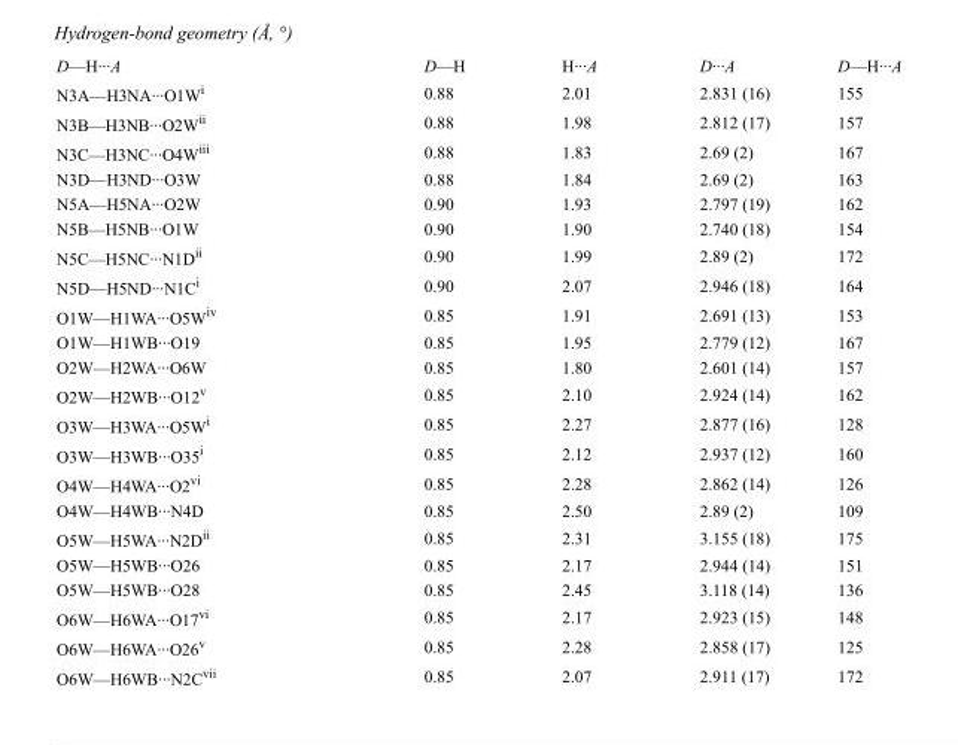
<table><tbody><tr><td>D—H···A</td><td>D—H</td><td>H···A</td><td>D···A</td><td>D—H···A</td></tr><tr><td>N3A—H3NA···O1W<sup>i</sup></td><td>0.88</td><td>2.01</td><td>2.831 (16)</td><td>155</td></tr><tr><td>N3B—H3NB···O2W<sup>ii</sup></td><td>0.88</td><td>1.98</td><td>2.812 (17)</td><td>157</td></tr><tr><td>N3C—H3NC···O4W<sup>iii</sup></td><td>0.88</td><td>1.83</td><td>2.69 (2)</td><td>167</td></tr><tr><td>N3D—H3ND···O3W</td><td>0.88</td><td>1.84</td><td>2.69 (2)</td><td>163</td></tr><tr><td>N5A—H5NA···O2W</td><td>0.90</td><td>1.93</td><td>2.797 (19)</td><td>162</td></tr><tr><td>N5B—H5NB···O1W</td><td>0.90</td><td>1.90</td><td>2.740 (18)</td><td>154</td></tr><tr><td>N5C—H5NC···N1D<sup>ii</sup></td><td>0.90</td><td>1.99</td><td>2.89 (2)</td><td>172</td></tr><tr><td>N5D—H5ND···N1C<sup>i</sup></td><td>0.90</td><td>2.07</td><td>2.946 (18)</td><td>164</td></tr><tr><td>O1W—H1WA···O5W<sup>iv</sup></td><td>0.85</td><td>1.91</td><td>2.691 (13)</td><td>153</td></tr><tr><td>O1W—H1WB···O19</td><td>0.85</td><td>1.95</td><td>2.779 (12)</td><td>167</td></tr><tr><td>O2W—H2WA···O6W</td><td>0.85</td><td>1.80</td><td>2.601 (14)</td><td>157</td></tr><tr><td>O2W—H2WB···O12<sup>v</sup></td><td>0.85</td><td>2.10</td><td>2.924 (14)</td><td>162</td></tr><tr><td>O3W—H3WA···O5W<sup>i</sup></td><td>0.85</td><td>2.27</td><td>2.877 (16)</td><td>128</td></tr><tr><td>O3W—H3WB···O35<sup>i</sup></td><td>0.85</td><td>2.12</td><td>2.937 (12)</td><td>160</td></tr><tr><td>O4W—H4WA···O2<sup>vi</sup></td><td>0.85</td><td>2.28</td><td>2.862 (14)</td><td>126</td></tr><tr><td>O4W—H4WB···N4D</td><td>0.85</td><td>2.50</td><td>2.89 (2)</td><td>109</td></tr><tr><td>O5W—H5WA···N2D<sup>ii</sup></td><td>0.85</td><td>2.31</td><td>3.155 (18)</td><td>175</td></tr><tr><td>O5W—H5WB···O26</td><td>0.85</td><td>2.17</td><td>2.944 (14)</td><td>151</td></tr><tr><td>O5W—H5WB···O28</td><td>0.85</td><td>2.45</td><td>3.118 (14)</td><td>136</td></tr><tr><td>O6W—H6WA···O17<sup>vi</sup></td><td>0.85</td><td>2.17</td><td>2.923 (15)</td><td>148</td></tr><tr><td>O6W—H6WA···O26<sup>v</sup></td><td>0.85</td><td>2.28</td><td>2.858 (17)</td><td>125</td></tr><tr><td>O6W—H6WB···N2C<sup>vii</sup></td><td>0.85</td><td>2.07</td><td>2.911 (17)</td><td>172</td></tr></tbody></table>